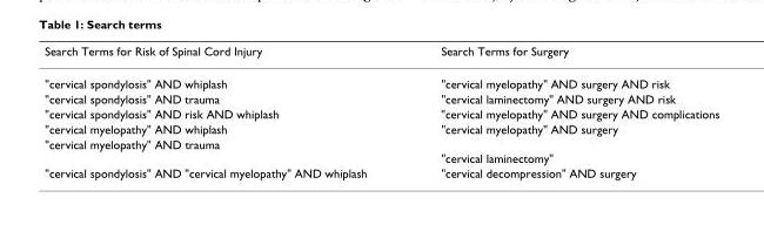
<table><thead><tr><td>Search Terms for Risk of Spinal Cord Injury</td><td>Search Terms for Surgery</td></tr></thead><tbody><tr><td>&quot;cervical spondylosis&quot; AND whiplash</td><td>&quot;cervical myelopathy&quot; AND surgery AND risk</td></tr><tr><td>&quot;cervical spondylosis&quot; AND trauma</td><td>&quot;cervical laminectomy&quot; AND surgery AND risk</td></tr><tr><td>&quot;cervical spondylosis&quot; AND risk AND whiplash</td><td>&quot;cervical myelopathy&quot; AND surgery AND complications</td></tr><tr><td>&quot;cervical myelopathy&quot; AND whiplash</td><td>&quot;cervical myelopathy&quot; AND surgery</td></tr><tr><td>&quot;cervical myelopathy&quot; AND trauma</td><td>&quot;cervical laminectomy&quot;</td></tr><tr><td>&quot;cervical spondylosis&quot; AND &quot;cervical myelopathy&quot; AND whiplash</td><td>&quot;cervical decompression&quot; AND surgery</td></tr></tbody></table>